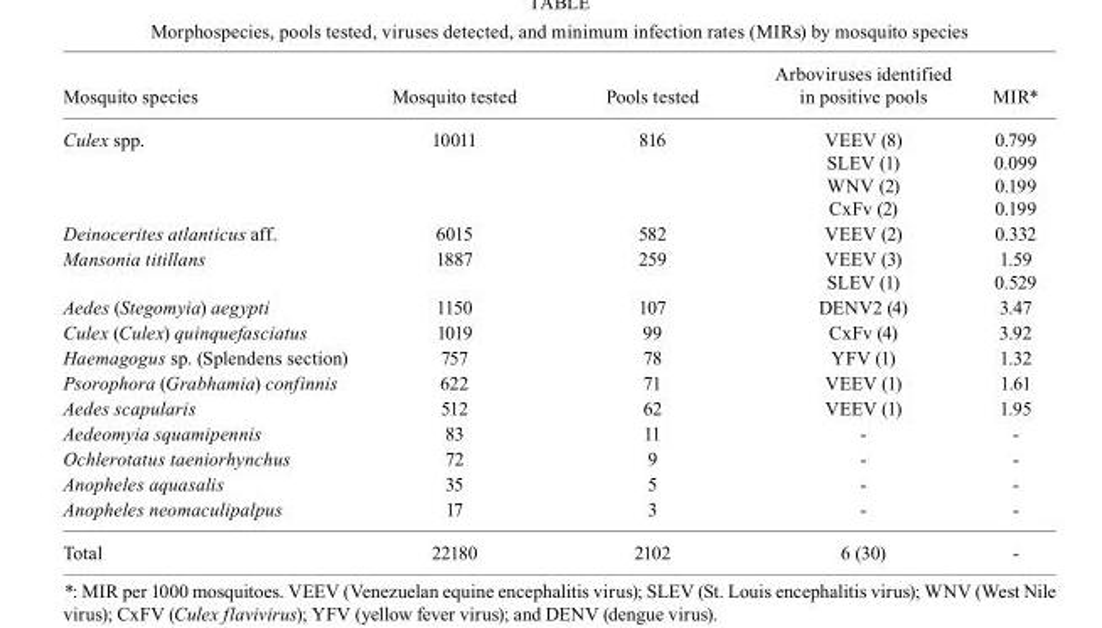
<table><thead><tr><td>Mosquito species</td><td>Mosquito tested</td><td>Pools tested</td><td>Arboviruses identified in positive pools</td><td>MIR*</td></tr></thead><tbody><tr><td>Culex spp.</td><td>10011</td><td>816</td><td>VEEV (8) SLEV (1) WNV (2) CxFv (2)</td><td>0.799 0.099 0.199 0.199</td></tr><tr><td>Deinocerites atlanticus aff.</td><td>6015</td><td>582</td><td>VEEV (2)</td><td>0.332</td></tr><tr><td>Mansonia titillans</td><td>1887</td><td>259</td><td>VEEV (3) SLEV (1)</td><td>1.59 0.529</td></tr><tr><td>Aedes (Stegomyia) aegypti</td><td>1150</td><td>107</td><td>DENV2 (4)</td><td>3.47</td></tr><tr><td>Culex (Culex) quinquefasciatus</td><td>1019</td><td>99</td><td>CxFv (4)</td><td>3.92</td></tr><tr><td>Haemagogus sp. (Splendens section)</td><td>757</td><td>78</td><td>YFV (1)</td><td>1.32</td></tr><tr><td>Psorophora (Grabhamia) confinnis</td><td>622</td><td>71</td><td>VEEV (1)</td><td>1.61</td></tr><tr><td>Aedes scapularis</td><td>512</td><td>62</td><td>VEEV (1)</td><td>1.95</td></tr><tr><td>Aedeomyia squamipennis</td><td>83</td><td>11</td><td>-</td><td>-</td></tr><tr><td>Ochlerotatus taeniorhynchus</td><td>72</td><td>9</td><td>-</td><td>-</td></tr><tr><td>Anopheles aquasalis</td><td>35</td><td>5</td><td>-</td><td>-</td></tr><tr><td>Anopheles neomaculipalpus</td><td>17</td><td>3</td><td>-</td><td>-</td></tr><tr><td>Total</td><td>22180</td><td>2102</td><td>6 (30)</td><td>-</td></tr></tbody></table>